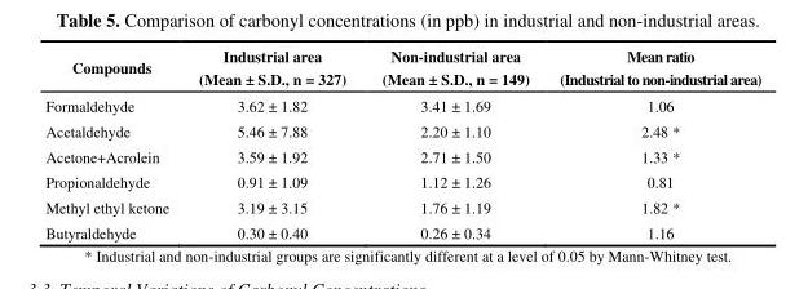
<table><thead><tr><td>Compounds</td><td>Industrial area (Mean ± S.D., n = 327)</td><td>Non-industrial area (Mean ± S.D., n = 149)</td><td>Mean ratio (Industrial to non-industrial area)</td></tr></thead><tbody><tr><td>Formaldehyde</td><td>3.62 ± 1.82</td><td>3.41 ± 1.69</td><td>1.06</td></tr><tr><td>Acetaldehyde</td><td>5.46 ± 7.88</td><td>2.20 ± 1.10</td><td>2.48 *</td></tr><tr><td>Acetone+Acrolein</td><td>3.59 ± 1.92</td><td>2.71 ± 1.50</td><td>1.33 *</td></tr><tr><td>Propionaldehyde</td><td>0.91 ± 1.09</td><td>1.12 ± 1.26</td><td>0.81</td></tr><tr><td>Methyl ethyl ketone</td><td>3.19 ± 3.15</td><td>1.76 ± 1.19</td><td>1.82 *</td></tr><tr><td>Butyraldehyde</td><td>0.30 ± 0.40</td><td>0.26 ± 0.34</td><td>1.16</td></tr></tbody></table>